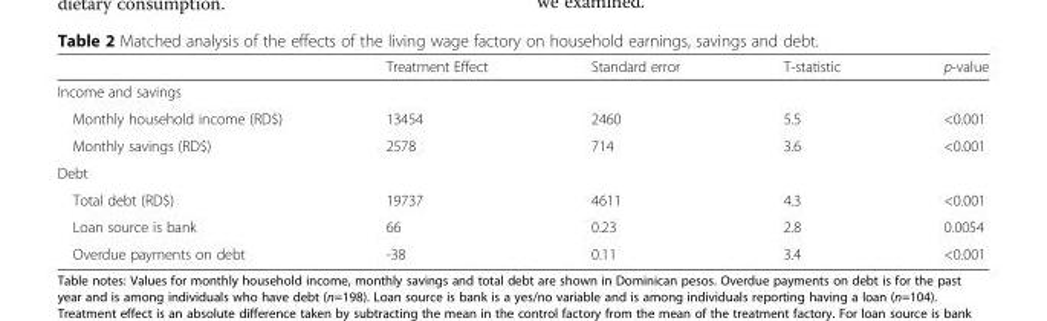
<table><thead><tr><td></td><td>Treatment Effect</td><td>Standard error</td><td>T-statistic</td><td>p-value</td></tr></thead><tbody><tr><td colspan="5">Income and savings</td></tr><tr><td>Monthly household income (RD$)</td><td>13454</td><td>2460</td><td>5.5</td><td>&lt;0.001</td></tr><tr><td>Monthly savings (RD$)</td><td>2578</td><td>714</td><td>3.6</td><td>&lt;0.001</td></tr><tr><td colspan="5">Debt</td></tr><tr><td>Total debt (RD$)</td><td>19737</td><td>4611</td><td>4.3</td><td>&lt;0.001</td></tr><tr><td>Loan source is bank</td><td>66</td><td>0.23</td><td>2.8</td><td>0.0054</td></tr><tr><td>Overdue payments on debt</td><td>-38</td><td>0.11</td><td>3.4</td><td>&lt;0.001</td></tr></tbody></table>